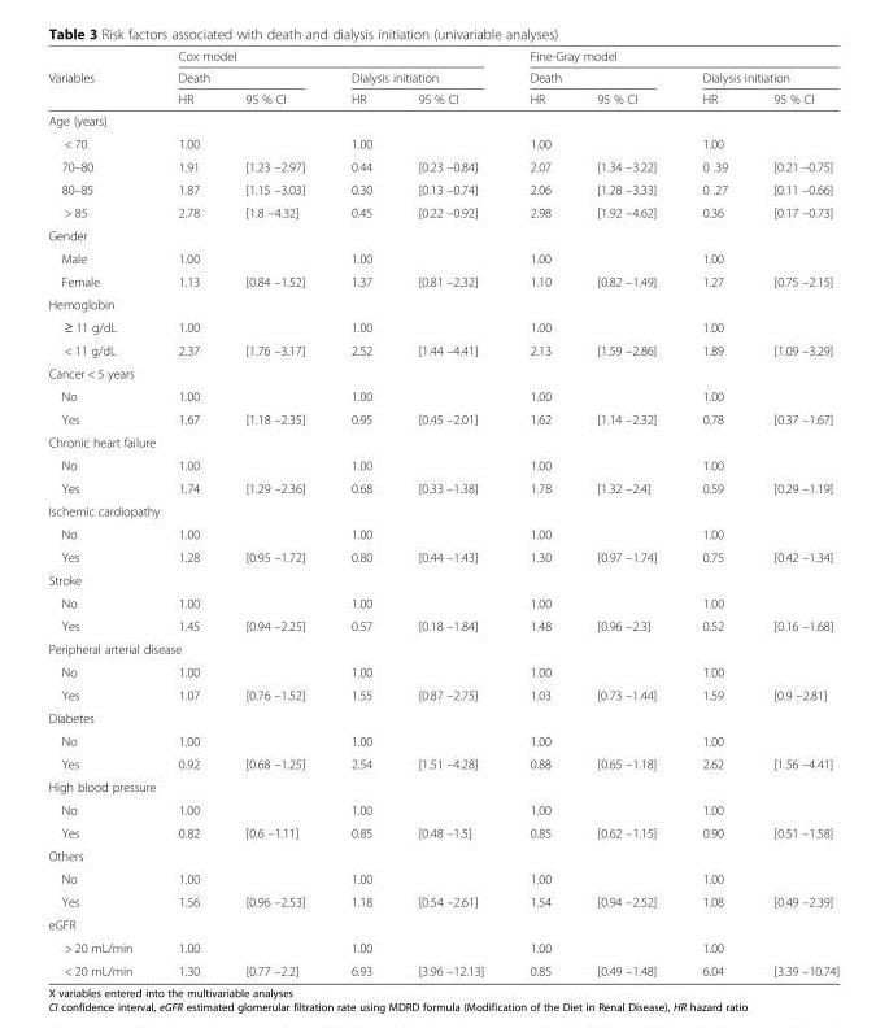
<table><thead><tr><td rowspan="3">Variables</td><td colspan="4">Cox model</td><td colspan="4">Fine-Gray model</td></tr><tr><td colspan="2">Death</td><td colspan="2">Dialysis initiation</td><td colspan="2">Death</td><td colspan="2">Dialysis initiation</td></tr><tr><td>HR</td><td>95 % CI</td><td>HR</td><td>95 % CI</td><td>HR</td><td>95 % CI</td><td>HR</td><td>95 % CI</td></tr></thead><tbody><tr><td colspan="9">Age (years)</td></tr><tr><td>&lt; 70</td><td>1.00</td><td></td><td>1.00</td><td></td><td>1.00</td><td></td><td>1.00</td><td></td></tr><tr><td>70–80</td><td>1.91</td><td>[1.23 –2.97]</td><td>0.44</td><td>[0.23 –0.84]</td><td>2.07</td><td>[1.34 –3.22]</td><td>0 .39</td><td>[0.21 –0.75]</td></tr><tr><td>80–85</td><td>1.87</td><td>[1.15 –3.03]</td><td>0.30</td><td>[0.13 –0.74]</td><td>2.06</td><td>[1.28 –3.33]</td><td>0 .27</td><td>[0.11 –0.66]</td></tr><tr><td>&gt; 85</td><td>2.78</td><td>[1.8 –4.32]</td><td>0.45</td><td>[0.22 –0.92]</td><td>2.98</td><td>[1.92 –4.62]</td><td>0.36</td><td>[0.17 –0.73]</td></tr><tr><td colspan="9">Gender</td></tr><tr><td>Male</td><td>1.00</td><td></td><td>1.00</td><td></td><td>1.00</td><td></td><td>1.00</td><td></td></tr><tr><td>Female</td><td>1.13</td><td>[0.84 –1.52]</td><td>1.37</td><td>[0.81 –2.32]</td><td>1.10</td><td>[0.82 –1.49]</td><td>1.27</td><td>[0.75 –2.15]</td></tr><tr><td colspan="9">Hemoglobin</td></tr><tr><td>≥ 11 g/dL</td><td>1.00</td><td></td><td>1.00</td><td></td><td>1.00</td><td></td><td>1.00</td><td></td></tr><tr><td>&lt; 11 g/dL</td><td>2.37</td><td>[1.76 –3.17]</td><td>2.52</td><td>[1.44 –4.41]</td><td>2.13</td><td>[1.59 –2.86]</td><td>1.89</td><td>[1.09 –3.29]</td></tr><tr><td colspan="9">Cancer &lt; 5 years</td></tr><tr><td>No</td><td>1.00</td><td></td><td>1.00</td><td></td><td>1.00</td><td></td><td>1.00</td><td></td></tr><tr><td>Yes</td><td>1.67</td><td>[1.18 –2.35]</td><td>0.95</td><td>[0.45 –2.01]</td><td>1.62</td><td>[1.14 –2.32]</td><td>0.78</td><td>[0.37 –1.67]</td></tr><tr><td colspan="9">Chronic heart failure</td></tr><tr><td>No</td><td>1.00</td><td></td><td>1.00</td><td></td><td>1.00</td><td></td><td>1.00</td><td></td></tr><tr><td>Yes</td><td>1.74</td><td>[1.29 –2.36]</td><td>0.68</td><td>[0.33 –1.38]</td><td>1.78</td><td>[1.32 –2.4]</td><td>0.59</td><td>[0.29 –1.19]</td></tr><tr><td colspan="9">Ischemic cardiopathy</td></tr><tr><td>No</td><td>1.00</td><td></td><td>1.00</td><td></td><td>1.00</td><td></td><td>1.00</td><td></td></tr><tr><td>Yes</td><td>1.28</td><td>[0.95 –1.72]</td><td>0.80</td><td>[0.44 –1.43]</td><td>1.30</td><td>[0.97 –1.74]</td><td>0.75</td><td>[0.42 –1.34]</td></tr><tr><td colspan="9">Stroke</td></tr><tr><td>No</td><td>1.00</td><td></td><td>1.00</td><td></td><td>1.00</td><td></td><td>1.00</td><td></td></tr><tr><td>Yes</td><td>1.45</td><td>[0.94 –2.25]</td><td>0.57</td><td>[0.18 –1.84]</td><td>1.48</td><td>[0.96 –2.3]</td><td>0.52</td><td>[0.16 –1.68]</td></tr><tr><td colspan="9">Peripheral arterial disease</td></tr><tr><td>No</td><td>1.00</td><td></td><td>1.00</td><td></td><td>1.00</td><td></td><td>1.00</td><td></td></tr><tr><td>Yes</td><td>1.07</td><td>[0.76 –1.52]</td><td>1.55</td><td>[0.87 –2.75]</td><td>1.03</td><td>[0.73 –1.44]</td><td>1.59</td><td>[0.9 –2.81]</td></tr><tr><td colspan="9">Diabetes</td></tr><tr><td>No</td><td>1.00</td><td></td><td>1.00</td><td></td><td>1.00</td><td></td><td>1.00</td><td></td></tr><tr><td>Yes</td><td>0.92</td><td>[0.68 –1.25]</td><td>2.54</td><td>[1.51 –4.28]</td><td>0.88</td><td>[0.65 –1.18]</td><td>2.62</td><td>[1.56 –4.41]</td></tr><tr><td colspan="9">High blood pressure</td></tr><tr><td>No</td><td>1.00</td><td></td><td>1.00</td><td></td><td>1.00</td><td></td><td>1.00</td><td></td></tr><tr><td>Yes</td><td>0.82</td><td>[0.6 –1.11]</td><td>0.85</td><td>[0.48 –1.5]</td><td>0.85</td><td>[0.62 –1.15]</td><td>0.90</td><td>[0.51 –1.58]</td></tr><tr><td colspan="9">Others</td></tr><tr><td>No</td><td>1.00</td><td></td><td>1.00</td><td></td><td>1.00</td><td></td><td>1.00</td><td></td></tr><tr><td>Yes</td><td>1.56</td><td>[0.96 –2.53]</td><td>1.18</td><td>[0.54 –2.61]</td><td>1.54</td><td>[0.94 –2.52]</td><td>1.08</td><td>[0.49 –2.39]</td></tr><tr><td colspan="9">eGFR</td></tr><tr><td>&gt; 20 mL/min</td><td>1.00</td><td></td><td>1.00</td><td></td><td>1.00</td><td></td><td>1.00</td><td></td></tr><tr><td>&lt; 20 mL/min</td><td>1.30</td><td>[0.77 –2.2]</td><td>6.93</td><td>[3.96 –12.13]</td><td>0.85</td><td>[0.49 –1.48]</td><td>6.04</td><td>[3.39 –10.74]</td></tr></tbody></table>